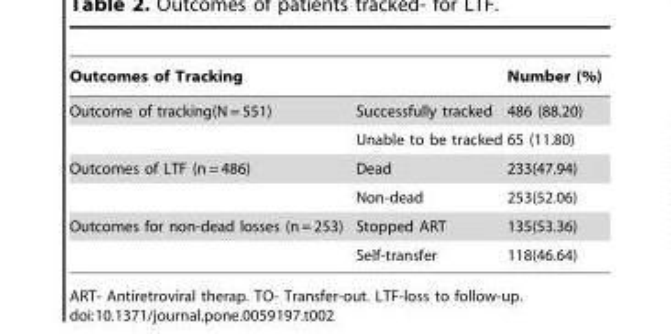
<table><thead><tr><td>Outcomes of Tracking</td><td></td><td>Number (%)</td></tr></thead><tbody><tr><td rowspan="2">Outcome of tracking(N = 551)</td><td>Successfully tracked</td><td>486 (88.20)</td></tr><tr><td>Unable to be tracked</td><td>65 (11.80)</td></tr><tr><td rowspan="2">Outcomes of LTF (n = 486)</td><td>Dead</td><td>233(47.94)</td></tr><tr><td>Non-dead</td><td>253(52.06)</td></tr><tr><td rowspan="2">Outcomes for non-dead losses (n = 253)</td><td>Stopped ART</td><td>135(53.36)</td></tr><tr><td>Self-transfer</td><td>118(46.64)</td></tr></tbody></table>